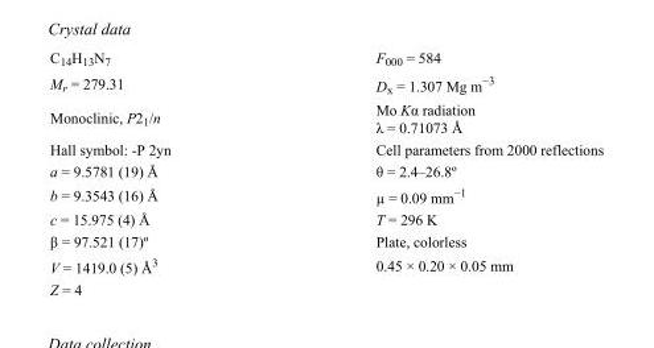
<table><tbody><tr><td>C<sub>14</sub>H<sub>13</sub>N<sub>7</sub></td><td>F000 = 584</td></tr><tr><td>M<sub>r</sub> = 279.31</td><td>D<sub>x</sub> = 1.307 Mg m<sup>−3</sup></td></tr><tr><td>Monoclinic, P2<sub>1</sub>/n</td><td>Mo Kα radiation λ = 0.71073 Å</td></tr><tr><td>Hall symbol: -P 2yn</td><td>Cell parameters from 2000 reflections</td></tr><tr><td>a = 9.5781 (19) Å</td><td>θ = 2.4–26.8º</td></tr><tr><td>b = 9.3543 (16) Å</td><td>µ = 0.09 mm<sup>−1</sup></td></tr><tr><td>c = 15.975 (4) Å</td><td>T = 296 K</td></tr><tr><td>β = 97.521 (17)º</td><td>Plate, colorless</td></tr><tr><td>V = 1419.0 (5) Å<sup>3</sup></td><td>0.45 × 0.20 × 0.05 mm</td></tr><tr><td>Z = 4</td><td></td></tr></tbody></table>